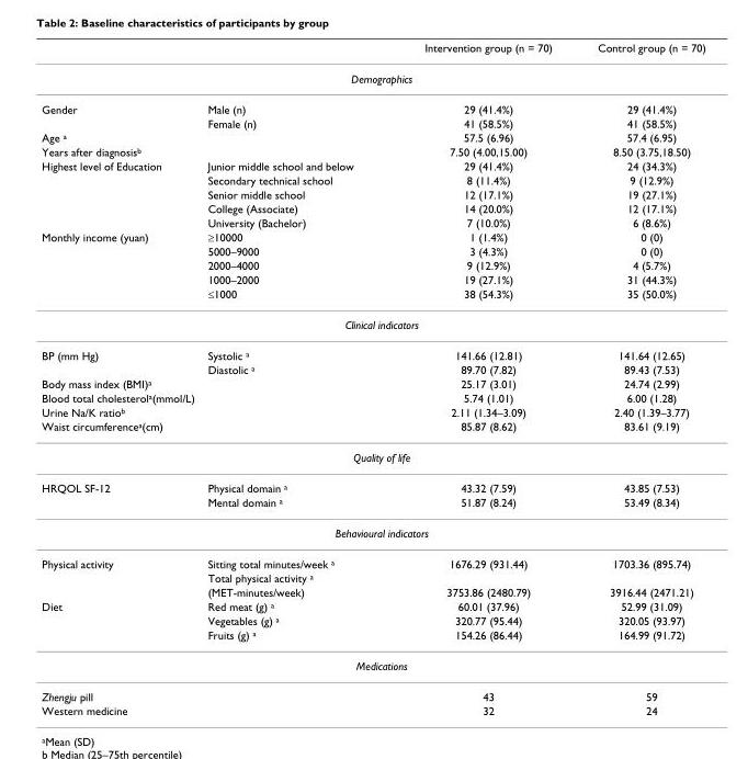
<table><thead><tr><td></td><td></td><td>Intervention group (n = 70)</td><td>Control group (n = 70)</td></tr></thead><tbody><tr><td colspan="4">Demographics</td></tr><tr><td rowspan="2">Gender</td><td>Male (n)</td><td>29 (41.4%)</td><td>29 (41.4%)</td></tr><tr><td>Female (n)</td><td>41 (58.5%)</td><td>41 (58.5%)</td></tr><tr><td colspan="2">Age <sup>a</sup></td><td>57.5 (6.96)</td><td>57.4 (6.95)</td></tr><tr><td colspan="2">Years after diagnosis<sup>b</sup></td><td>7.50 (4.00,15.00)</td><td>8.50 (3.75,18.50)</td></tr><tr><td rowspan="5">Highest level of Education</td><td>Junior middle school and below</td><td>29 (41.4%)</td><td>24 (34.3%)</td></tr><tr><td>Secondary technical school</td><td>8 (11.4%)</td><td>9 (12.9%)</td></tr><tr><td>Senior middle school</td><td>12 (17.1%)</td><td>19 (27.1%)</td></tr><tr><td>College (Associate)</td><td>14 (20.0%)</td><td>12 (17.1%)</td></tr><tr><td>University (Bachelor)</td><td>7 (10.0%)</td><td>6 (8.6%)</td></tr><tr><td rowspan="5">Monthly income (yuan)</td><td>≥10000</td><td>1 (1.4%)</td><td>0 (0)</td></tr><tr><td>5000–9000</td><td>3 (4.3%)</td><td>0 (0)</td></tr><tr><td>2000–4000</td><td>9 (12.9%)</td><td>4 (5.7%)</td></tr><tr><td>1000–2000</td><td>19 (27.1%)</td><td>31 (44.3%)</td></tr><tr><td>≤1000</td><td>38 (54.3%)</td><td>35 (50.0%)</td></tr><tr><td colspan="4">Clinical indicators</td></tr><tr><td rowspan="2">BP (mm Hg)</td><td>Systolic <sup>a</sup></td><td>141.66 (12.81)</td><td>141.64 (12.65)</td></tr><tr><td>Diastolic <sup>a</sup></td><td>89.70 (7.82)</td><td>89.43 (7.53)</td></tr><tr><td colspan="2">Body mass index (BMI)<sup>a</sup></td><td>25.17 (3.01)</td><td>24.74 (2.99)</td></tr><tr><td colspan="2">Blood total cholesterol<sup>a</sup>(mmol/L)</td><td>5.74 (1.01)</td><td>6.00 (1.28)</td></tr><tr><td colspan="2">Urine Na/K ratio<sup>b</sup></td><td>2.11 (1.34–3.09)</td><td>2.40 (1.39–3.77)</td></tr><tr><td colspan="2">Waist circumference<sup>a</sup>(cm)</td><td>85.87 (8.62)</td><td>83.61 (9.19)</td></tr><tr><td colspan="4">Quality of life</td></tr><tr><td rowspan="2">HRQOL SF-12</td><td>Physical domain <sup>a</sup></td><td>43.32 (7.59)</td><td>43.85 (7.53)</td></tr><tr><td>Mental domain <sup>a</sup></td><td>51.87 (8.24)</td><td>53.49 (8.34)</td></tr><tr><td colspan="4">Behavioural indicators</td></tr><tr><td rowspan="3">Physical activity</td><td>Sitting total minutes/week <sup>a</sup></td><td>1676.29 (931.44)</td><td>1703.36 (895.74)</td></tr><tr><td>Total physical activity <sup>a</sup></td><td></td><td></td></tr><tr><td>(MET-minutes/week)</td><td>3753.86 (2480.79)</td><td>3916.44 (2471.21)</td></tr><tr><td rowspan="3">Diet</td><td>Red meat (g) <sup>a</sup></td><td>60.01 (37.96)</td><td>52.99 (31.09)</td></tr><tr><td>Vegetables (g) <sup>a</sup></td><td>320.77 (95.44)</td><td>320.05 (93.97)</td></tr><tr><td>Fruits (g) <sup>a</sup></td><td>154.26 (86.44)</td><td>164.99 (91.72)</td></tr><tr><td colspan="4">Medications</td></tr><tr><td colspan="2">Zhengju pill</td><td>43</td><td>59</td></tr><tr><td colspan="2">Western medicine</td><td>32</td><td>24</td></tr></tbody></table>